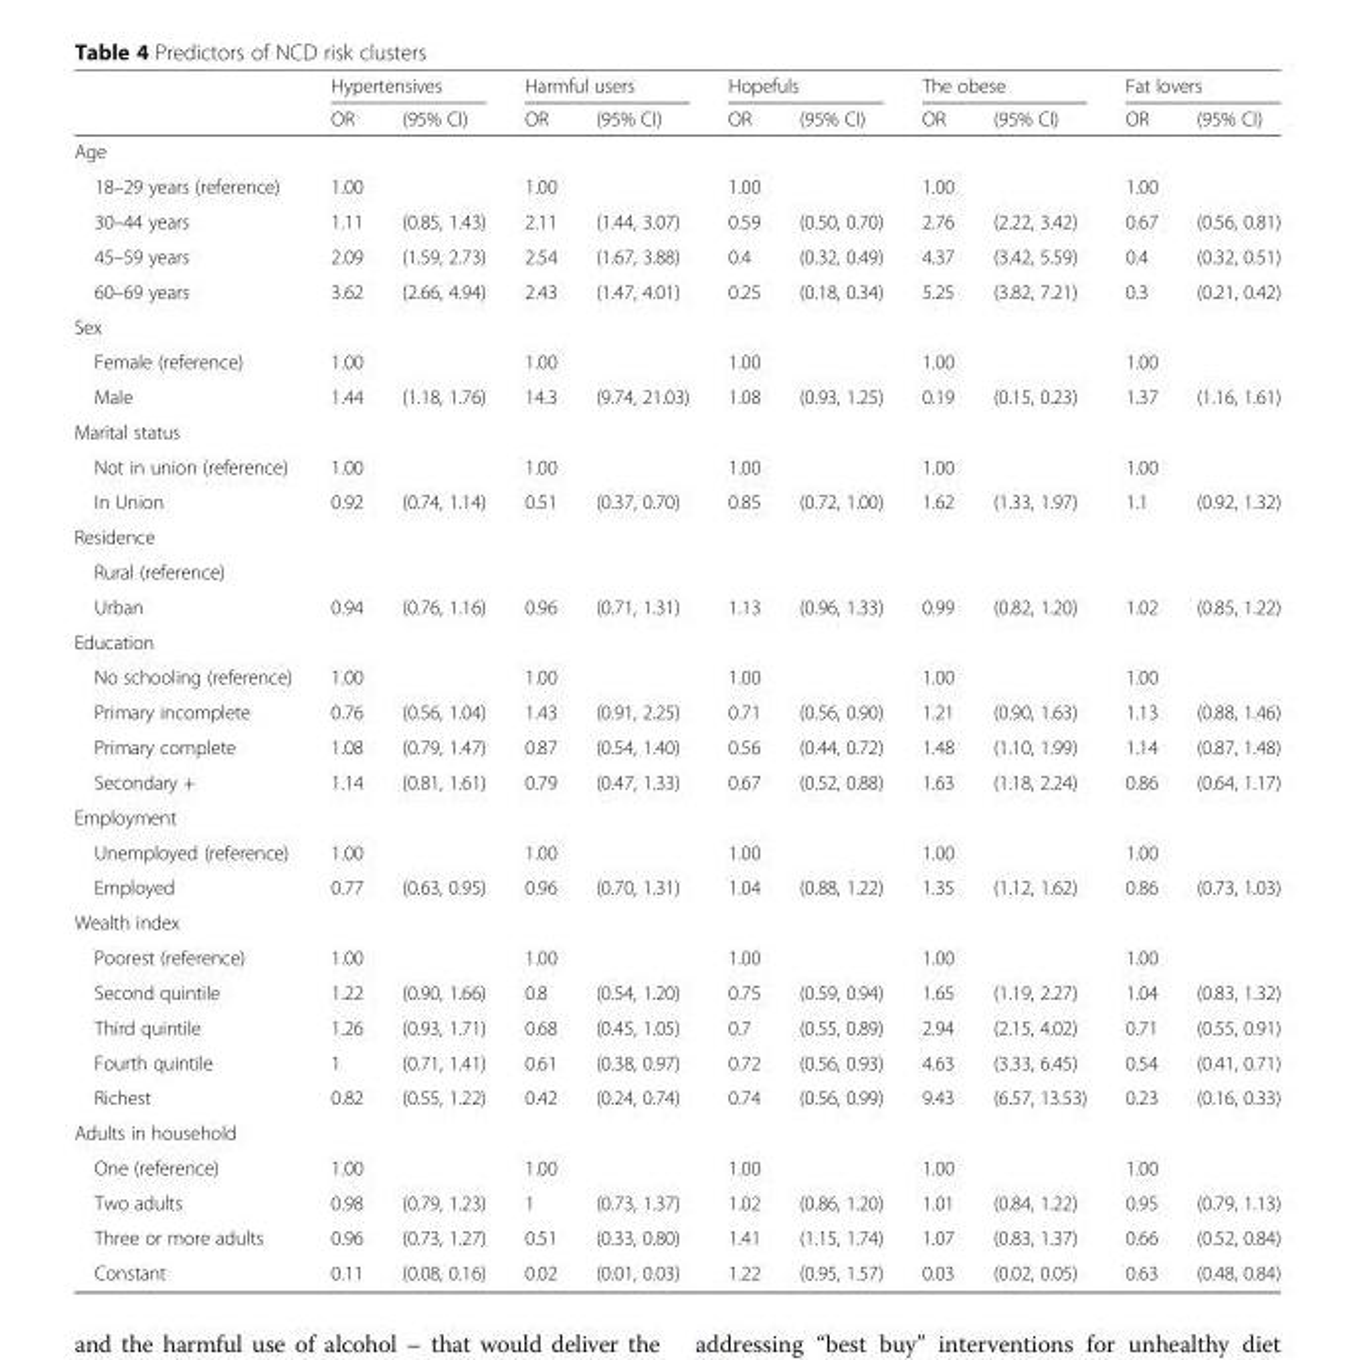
<table><thead><tr><td rowspan="2"></td><td colspan="2">Hypertensives</td><td colspan="2">Harmful users</td><td colspan="2">Hopefuls</td><td colspan="2">The obese</td><td colspan="2">Fat lovers</td></tr><tr><td>OR</td><td>(95% CI)</td><td>OR</td><td>(95% CI)</td><td>OR</td><td>(95% CI)</td><td>OR</td><td>(95% CI)</td><td>OR</td><td>(95% CI)</td></tr></thead><tbody><tr><td colspan="11">Age</td></tr><tr><td>18–29 years (reference)</td><td>1.00</td><td></td><td>1.00</td><td></td><td>1.00</td><td></td><td>1.00</td><td></td><td>1.00</td><td></td></tr><tr><td>30–44 years</td><td>1.11</td><td>(0.85, 1.43)</td><td>2.11</td><td>(1.44, 3.07)</td><td>0.59</td><td>(0.50, 0.70)</td><td>2.76</td><td>(2.22, 3.42)</td><td>0.67</td><td>(0.56, 0.81)</td></tr><tr><td>45–59 years</td><td>2.09</td><td>(1.59, 2.73)</td><td>2.54</td><td>(1.67, 3.88)</td><td>0.4</td><td>(0.32, 0.49)</td><td>4.37</td><td>(3.42, 5.59)</td><td>0.4</td><td>(0.32, 0.51)</td></tr><tr><td>60–69 years</td><td>3.62</td><td>(2.66, 4.94)</td><td>2.43</td><td>(1.47, 4.01)</td><td>0.25</td><td>(0.18, 0.34)</td><td>5.25</td><td>(3.82, 7.21)</td><td>0.3</td><td>(0.21, 0.42)</td></tr><tr><td colspan="11">Sex</td></tr><tr><td>Female (reference)</td><td>1.00</td><td></td><td>1.00</td><td></td><td>1.00</td><td></td><td>1.00</td><td></td><td>1.00</td><td></td></tr><tr><td>Male</td><td>1.44</td><td>(1.18, 1.76)</td><td>14.3</td><td>(9.74, 21.03)</td><td>1.08</td><td>(0.93, 1.25)</td><td>0.19</td><td>(0.15, 0.23)</td><td>1.37</td><td>(1.16, 1.61)</td></tr><tr><td colspan="11">Marital status</td></tr><tr><td>Not in union (reference)</td><td>1.00</td><td></td><td>1.00</td><td></td><td>1.00</td><td></td><td>1.00</td><td></td><td>1.00</td><td></td></tr><tr><td>In Union</td><td>0.92</td><td>(0.74, 1.14)</td><td>0.51</td><td>(0.37, 0.70)</td><td>0.85</td><td>(0.72, 1.00)</td><td>1.62</td><td>(1.33, 1.97)</td><td>1.1</td><td>(0.92, 1.32)</td></tr><tr><td colspan="11">Residence</td></tr><tr><td colspan="11">Rural (reference)</td></tr><tr><td>Urban</td><td>0.94</td><td>(0.76, 1.16)</td><td>0.96</td><td>(0.71, 1.31)</td><td>1.13</td><td>(0.96, 1.33)</td><td>0.99</td><td>(0.82, 1.20)</td><td>1.02</td><td>(0.85, 1.22)</td></tr><tr><td colspan="11">Education</td></tr><tr><td>No schooling (reference)</td><td>1.00</td><td></td><td>1.00</td><td></td><td>1.00</td><td></td><td>1.00</td><td></td><td>1.00</td><td></td></tr><tr><td>Primary incomplete</td><td>0.76</td><td>(0.56, 1.04)</td><td>1.43</td><td>(0.91, 2.25)</td><td>0.71</td><td>(0.56, 0.90)</td><td>1.21</td><td>(0.90, 1.63)</td><td>1.13</td><td>(0.88, 1.46)</td></tr><tr><td>Primary complete</td><td>1.08</td><td>(0.79, 1.47)</td><td>0.87</td><td>(0.54, 1.40)</td><td>0.56</td><td>(0.44, 0.72)</td><td>1.48</td><td>(1.10, 1.99)</td><td>1.14</td><td>(0.87, 1.48)</td></tr><tr><td>Secondary +</td><td>1.14</td><td>(0.81, 1.61)</td><td>0.79</td><td>(0.47, 1.33)</td><td>0.67</td><td>(0.52, 0.88)</td><td>1.63</td><td>(1.18, 2.24)</td><td>0.86</td><td>(0.64, 1.17)</td></tr><tr><td colspan="11">Employment</td></tr><tr><td>Unemployed (reference)</td><td>1.00</td><td></td><td>1.00</td><td></td><td>1.00</td><td></td><td>1.00</td><td></td><td>1.00</td><td></td></tr><tr><td>Employed</td><td>0.77</td><td>(0.63, 0.95)</td><td>0.96</td><td>(0.70, 1.31)</td><td>1.04</td><td>(0.88, 1.22)</td><td>1.35</td><td>(1.12, 1.62)</td><td>0.86</td><td>(0.73, 1.03)</td></tr><tr><td colspan="11">Wealth index</td></tr><tr><td>Poorest (reference)</td><td>1.00</td><td></td><td>1.00</td><td></td><td>1.00</td><td></td><td>1.00</td><td></td><td>1.00</td><td></td></tr><tr><td>Second quintile</td><td>1.22</td><td>(0.90, 1.66)</td><td>0.8</td><td>(0.54, 1.20)</td><td>0.75</td><td>(0.59, 0.94)</td><td>1.65</td><td>(1.19, 2.27)</td><td>1.04</td><td>(0.83, 1.32)</td></tr><tr><td>Third quintile</td><td>1.26</td><td>(0.93, 1.71)</td><td>0.68</td><td>(0.45, 1.05)</td><td>0.7</td><td>(0.55, 0.89)</td><td>2.94</td><td>(2.15, 4.02)</td><td>0.71</td><td>(0.55, 0.91)</td></tr><tr><td>Fourth quintile</td><td>1</td><td>(0.71, 1.41)</td><td>0.61</td><td>(0.38, 0.97)</td><td>0.72</td><td>(0.56, 0.93)</td><td>4.63</td><td>(3.33, 6.45)</td><td>0.54</td><td>(0.41, 0.71)</td></tr><tr><td>Richest</td><td>0.82</td><td>(0.55, 1.22)</td><td>0.42</td><td>(0.24, 0.74)</td><td>0.74</td><td>(0.56, 0.99)</td><td>9.43</td><td>(6.57, 13.53)</td><td>0.23</td><td>(0.16, 0.33)</td></tr><tr><td colspan="11">Adults in household</td></tr><tr><td>One (reference)</td><td>1.00</td><td></td><td>1.00</td><td></td><td>1.00</td><td></td><td>1.00</td><td></td><td>1.00</td><td></td></tr><tr><td>Two adults</td><td>0.98</td><td>(0.79, 1.23)</td><td>1</td><td>(0.73, 1.37)</td><td>1.02</td><td>(0.86, 1.20)</td><td>1.01</td><td>(0.84, 1.22)</td><td>0.95</td><td>(0.79, 1.13)</td></tr><tr><td>Three or more adults</td><td>0.96</td><td>(0.73, 1.27)</td><td>0.51</td><td>(0.33, 0.80)</td><td>1.41</td><td>(1.15, 1.74)</td><td>1.07</td><td>(0.83, 1.37)</td><td>0.66</td><td>(0.52, 0.84)</td></tr><tr><td>Constant</td><td>0.11</td><td>(0.08, 0.16)</td><td>0.02</td><td>(0.01, 0.03)</td><td>1.22</td><td>(0.95, 1.57)</td><td>0.03</td><td>(0.02, 0.05)</td><td>0.63</td><td>(0.48, 0.84)</td></tr></tbody></table>